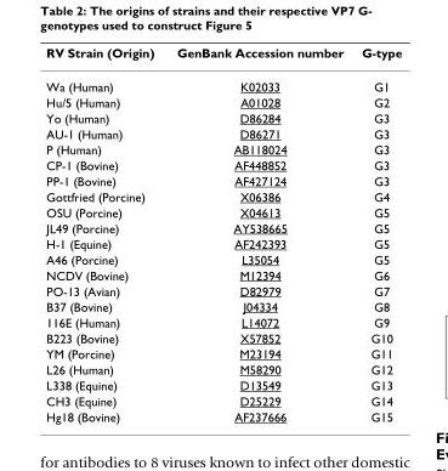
<table><thead><tr><td>RV Strain (Origin)</td><td>GenBank Accession number</td><td>G-type</td></tr></thead><tbody><tr><td>Wa (Human)</td><td>K02033</td><td>G1</td></tr><tr><td>Hu/5 (Human)</td><td>A01028</td><td>G2</td></tr><tr><td>Yo (Human)</td><td>D86284</td><td>G3</td></tr><tr><td>AU-1 (Human)</td><td>D86271</td><td>G3</td></tr><tr><td>P (Human)</td><td>AB118024</td><td>G3</td></tr><tr><td>CP-1 (Bovine)</td><td>AF448852</td><td>G3</td></tr><tr><td>PP-1 (Bovine)</td><td>AF427124</td><td>G3</td></tr><tr><td>Gottfried (Porcine)</td><td>X06386</td><td>G4</td></tr><tr><td>OSU (Porcine)</td><td>X04613</td><td>G5</td></tr><tr><td>JL49 (Porcine)</td><td>AY538665</td><td>G5</td></tr><tr><td>H-1 (Equine)</td><td>AF242393</td><td>G5</td></tr><tr><td>A46 (Porcine)</td><td>L35054</td><td>G5</td></tr><tr><td>NCDV (Bovine)</td><td>M12394</td><td>G6</td></tr><tr><td>PO-13 (Avian)</td><td>D82979</td><td>G7</td></tr><tr><td>B37 (Bovine)</td><td>J04334</td><td>G8</td></tr><tr><td>116E (Human)</td><td>L14072</td><td>G9</td></tr><tr><td>B223 (Bovine)</td><td>X57852</td><td>G10</td></tr><tr><td>YM (Porcine)</td><td>M23194</td><td>G11</td></tr><tr><td>L26 (Human)</td><td>M58290</td><td>G12</td></tr><tr><td>L338 (Equine)</td><td>D13549</td><td>G13</td></tr><tr><td>CH3 (Equine)</td><td>D25229</td><td>G14</td></tr><tr><td>Hg18 (Bovine)</td><td>AF237666</td><td>G15</td></tr></tbody></table>